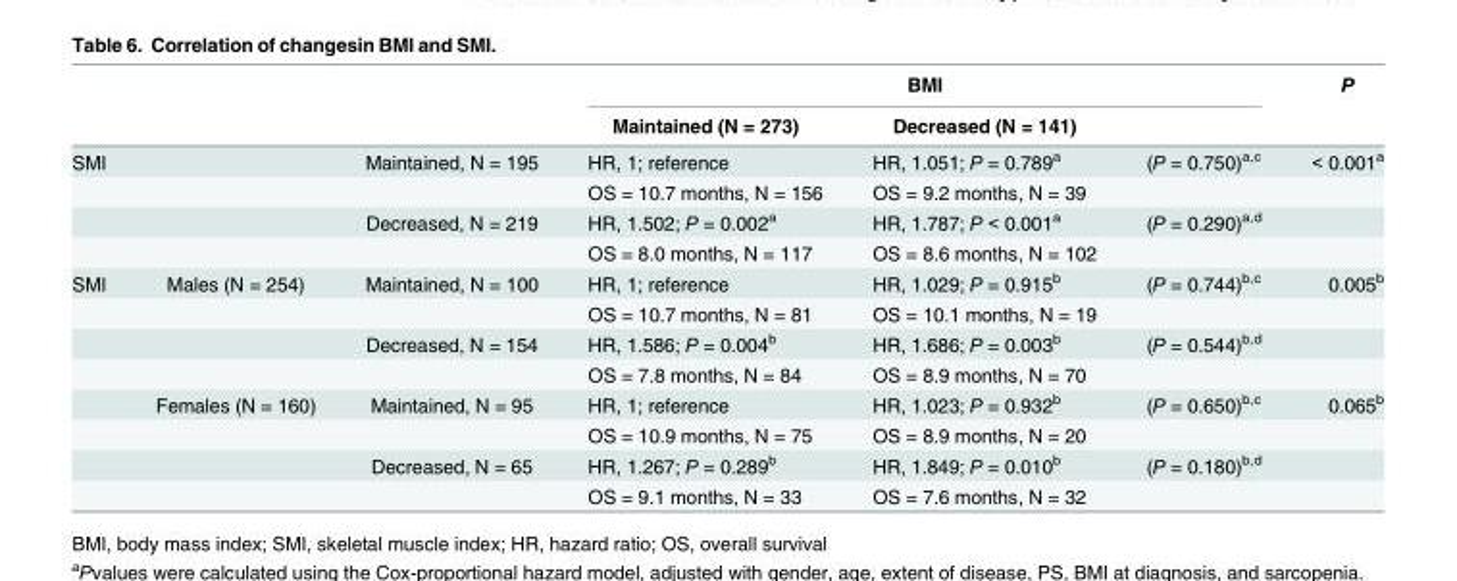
<table><thead><tr><td rowspan="2"></td><td rowspan="2"></td><td rowspan="2"></td><td colspan="3">BMI</td><td rowspan="2">P</td></tr><tr><td>Maintained (N = 273)</td><td>Decreased (N = 141)</td><td></td></tr></thead><tbody><tr><td rowspan="4" colspan="2">SMI</td><td>Maintained, N = 195</td><td>HR, 1; reference</td><td>HR, 1.051; P = 0.789<sup>a</sup></td><td>(P = 0.750)<sup>a,c</sup></td><td>&lt; 0.001<sup>a</sup></td></tr><tr><td></td><td>OS = 10.7 months, N = 156</td><td>OS = 9.2 months, N = 39</td><td></td><td></td></tr><tr><td>Decreased, N = 219</td><td>HR, 1.502; P = 0.002<sup>a</sup></td><td>HR, 1.787; P &lt; 0.001<sup>a</sup></td><td>(P = 0.290)<sup>a,d</sup></td><td></td></tr><tr><td></td><td>OS = 8.0 months, N = 117</td><td>OS = 8.6 months, N = 102</td><td></td><td></td></tr><tr><td rowspan="8">SMI</td><td>Males (N = 254)</td><td>Maintained, N = 100</td><td>HR, 1; reference</td><td>HR, 1.029; P = 0.915<sup>b</sup></td><td>(P = 0.744)<sup>b,c</sup></td><td>0.005<sup>b</sup></td></tr><tr><td></td><td></td><td>OS = 10.7 months, N = 81</td><td>OS = 10.1 months, N = 19</td><td></td><td></td></tr><tr><td></td><td>Decreased, N = 154</td><td>HR, 1.586; P = 0.004<sup>b</sup></td><td>HR, 1.686; P = 0.003<sup>b</sup></td><td>(P = 0.544)<sup>b,d</sup></td><td></td></tr><tr><td></td><td></td><td>OS = 7.8 months, N = 84</td><td>OS = 8.9 months, N = 70</td><td></td><td></td></tr><tr><td>Females (N = 160)</td><td>Maintained, N = 95</td><td>HR, 1; reference</td><td>HR, 1.023; P = 0.932<sup>b</sup></td><td>(P = 0.650)<sup>b,c</sup></td><td>0.065<sup>b</sup></td></tr><tr><td></td><td></td><td>OS = 10.9 months, N = 75</td><td>OS = 8.9 months, N = 20</td><td></td><td></td></tr><tr><td></td><td>Decreased, N = 65</td><td>HR, 1.267; P = 0.289<sup>b</sup></td><td>HR, 1.849; P = 0.010<sup>b</sup></td><td>(P = 0.180)<sup>b,d</sup></td><td></td></tr><tr><td></td><td></td><td>OS = 9.1 months, N = 33</td><td>OS = 7.6 months, N = 32</td><td></td><td></td></tr></tbody></table>